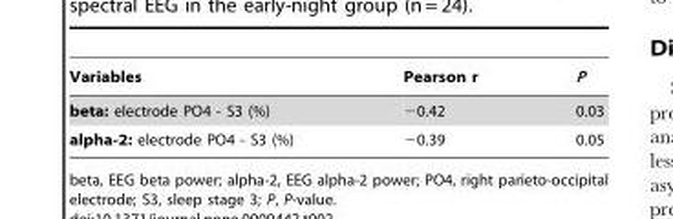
<table><thead><tr><td>Variables</td><td>Pearson r</td><td>P</td></tr></thead><tbody><tr><td>beta: electrode PO4 - S3 (%)</td><td>−0.42</td><td>0.03</td></tr><tr><td>alpha-2: electrode PO4 - S3 (%)</td><td>−0.39</td><td>0.05</td></tr></tbody></table>